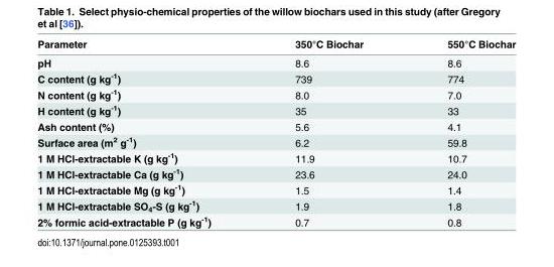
<table><thead><tr><td>Parameter</td><td>350°C Biochar</td><td>550°C Biochar</td></tr></thead><tbody><tr><td>pH</td><td>8.6</td><td>8.6</td></tr><tr><td>C content (g kg<sup>-1</sup>)</td><td>739</td><td>774</td></tr><tr><td>N content (g kg<sup>-1</sup>)</td><td>8.0</td><td>7.0</td></tr><tr><td>H content (g kg<sup>-1</sup>)</td><td>35</td><td>33</td></tr><tr><td>Ash content (%)</td><td>5.6</td><td>4.1</td></tr><tr><td>Surface area (m<sup>2</sup> g<sup>-1</sup>)</td><td>6.2</td><td>59.8</td></tr><tr><td>1 M HCl-extractable K (g kg<sup>-1</sup>)</td><td>11.9</td><td>10.7</td></tr><tr><td>1 M HCl-extractable Ca (g kg<sup>-1</sup>)</td><td>23.6</td><td>24.0</td></tr><tr><td>1 M HCl-extractable Mg (g kg<sup>-1</sup>)</td><td>1.5</td><td>1.4</td></tr><tr><td>1 M HCl-extractable SO<sub>4</sub>-S (g kg<sup>-1</sup>)</td><td>1.9</td><td>1.8</td></tr><tr><td>2% formic acid-extractable P (g kg<sup>-1</sup>)</td><td>0.7</td><td>0.8</td></tr></tbody></table>